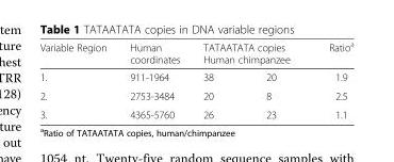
<table><thead><tr><td rowspan="3">Variable Region 1.</td><td rowspan="3">Human coordinates 911-1964</td><td rowspan="2" colspan="2">TATAATATA copies Human chimpanzee</td><td rowspan="3">Ratio<sup>a</sup> 1.9</td></tr><tr></tr><tr><td>38</td><td>20</td></tr></thead><tbody><tr><td>2.</td><td>2753-3484</td><td>20</td><td>8</td><td>2.5</td></tr><tr><td>3.</td><td>4365-5760</td><td>26</td><td>23</td><td>1.1</td></tr></tbody></table>